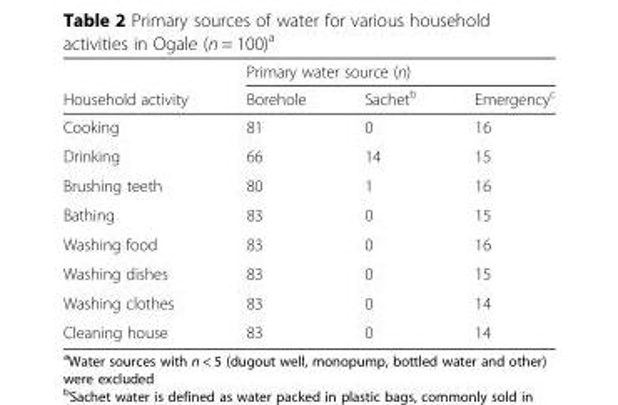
<table><thead><tr><td rowspan="2">Household activity</td><td colspan="3">Primary water source (n)</td></tr><tr><td>Borehole</td><td>Sachet<sup>b</sup></td><td>Emergency<sup>c</sup></td></tr></thead><tbody><tr><td>Cooking</td><td>81</td><td>0</td><td>16</td></tr><tr><td>Drinking</td><td>66</td><td>14</td><td>15</td></tr><tr><td>Brushing teeth</td><td>80</td><td>1</td><td>16</td></tr><tr><td>Bathing</td><td>83</td><td>0</td><td>15</td></tr><tr><td>Washing food</td><td>83</td><td>0</td><td>16</td></tr><tr><td>Washing dishes</td><td>83</td><td>0</td><td>15</td></tr><tr><td>Washing clothes</td><td>83</td><td>0</td><td>14</td></tr><tr><td>Cleaning house</td><td>83</td><td>0</td><td>14</td></tr></tbody></table>